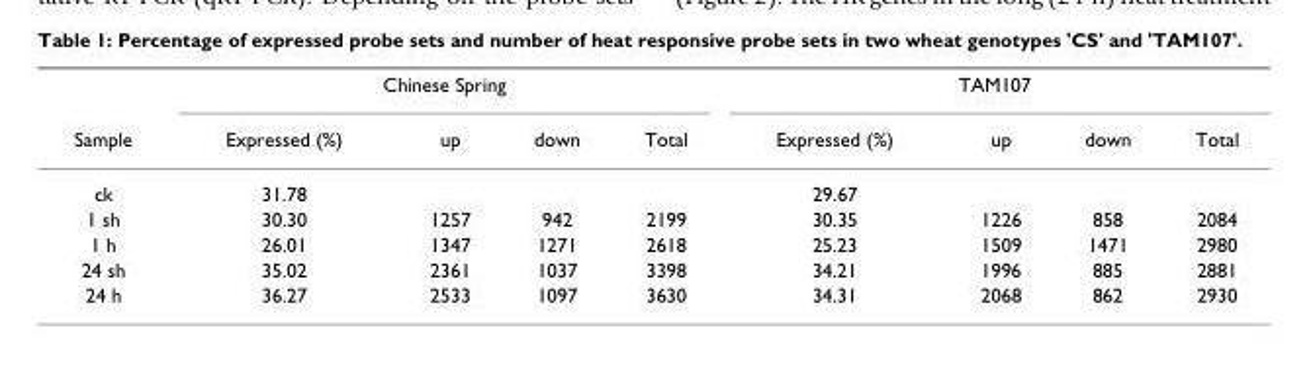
<table><thead><tr><td rowspan="2">Sample</td><td colspan="4">Chinese Spring</td><td colspan="4">TAM107</td></tr><tr><td>Expressed (%)</td><td>up</td><td>down</td><td>Total</td><td>Expressed (%)</td><td>up</td><td>down</td><td>Total</td></tr></thead><tbody><tr><td>ck</td><td>31.78</td><td></td><td></td><td></td><td>29.67</td><td></td><td></td><td></td></tr><tr><td>1 sh</td><td>30.30</td><td>1257</td><td>942</td><td>2199</td><td>30.35</td><td>1226</td><td>858</td><td>2084</td></tr><tr><td>1 h</td><td>26.01</td><td>1347</td><td>1271</td><td>2618</td><td>25.23</td><td>1509</td><td>1471</td><td>2980</td></tr><tr><td>24 sh</td><td>35.02</td><td>2361</td><td>1037</td><td>3398</td><td>34.21</td><td>1996</td><td>885</td><td>2881</td></tr><tr><td>24 h</td><td>36.27</td><td>2533</td><td>1097</td><td>3630</td><td>34.31</td><td>2068</td><td>862</td><td>2930</td></tr></tbody></table>